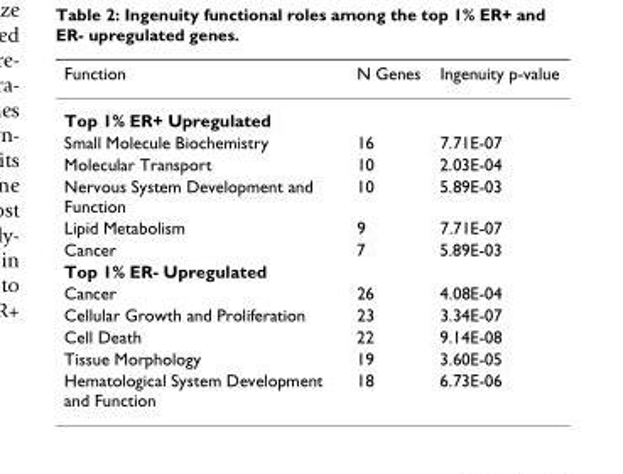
<table><thead><tr><td>Function</td><td>N Genes</td><td>Ingenuity p-value</td></tr></thead><tbody><tr><td colspan="3">Top 1% ER+ Upregulated</td></tr><tr><td>Small Molecule Biochemistry</td><td>16</td><td>7.71E-07</td></tr><tr><td>Molecular Transport</td><td>10</td><td>2.03E-04</td></tr><tr><td>Nervous System Development and Function</td><td>10</td><td>5.89E-03</td></tr><tr><td>Lipid Metabolism</td><td>9</td><td>7.71E-07</td></tr><tr><td>Cancer</td><td>7</td><td>5.89E-03</td></tr><tr><td colspan="3">Top 1% ER- Upregulated</td></tr><tr><td>Cancer</td><td>26</td><td>4.08E-04</td></tr><tr><td>Cellular Growth and Proliferation</td><td>23</td><td>3.34E-07</td></tr><tr><td>Cell Death</td><td>22</td><td>9.14E-08</td></tr><tr><td>Tissue Morphology</td><td>19</td><td>3.60E-05</td></tr><tr><td>Hematological System Development and Function</td><td>18</td><td>6.73E-06</td></tr></tbody></table>